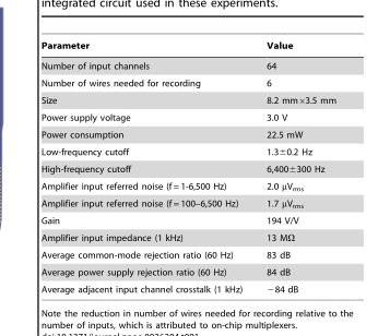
<table><thead><tr><td>Parameter</td><td>Value</td></tr></thead><tbody><tr><td>Number of input channels</td><td>64</td></tr><tr><td>Number of wires needed for recording</td><td>6</td></tr><tr><td>Size</td><td>8.2 mm×3.5 mm</td></tr><tr><td>Power supply voltage</td><td>3.0 V</td></tr><tr><td>Power consumption</td><td>22.5 mW</td></tr><tr><td>Low-frequency cutoff</td><td>1.3±0.2 Hz</td></tr><tr><td>High-frequency cutoff</td><td>6,400±300 Hz</td></tr><tr><td>Amplifier input referred noise (f = 1-6,500 Hz)</td><td>2.0 ]Vrms</td></tr><tr><td>Amplifier input referred noise (f = 100–6,500 Hz)</td><td>1.7 ]Vrms</td></tr><tr><td>Gain</td><td>194 V/V</td></tr><tr><td>Amplifier input impedance (1 kHz)</td><td>13 MΩ</td></tr><tr><td>Average common-mode rejection ratio (60 Hz)</td><td>83 dB</td></tr><tr><td>Average power supply rejection ratio (60 Hz)</td><td>84 dB</td></tr><tr><td>Average adjacent input channel crosstalk (1 kHz)</td><td>−84 dB</td></tr></tbody></table>